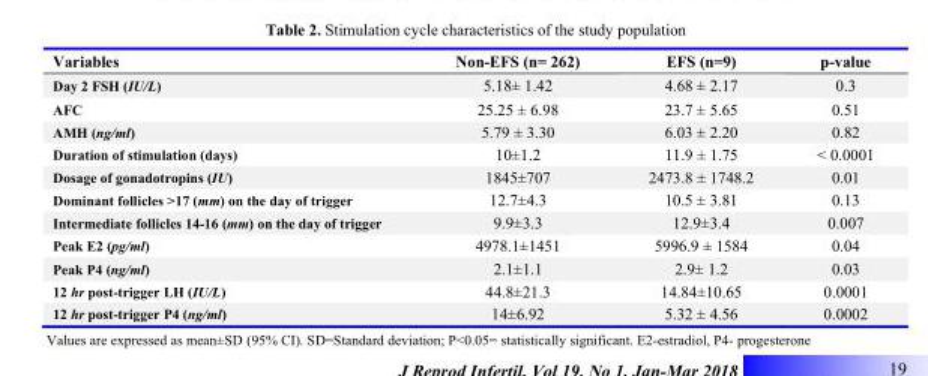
<table><thead><tr><td>Variables</td><td>Non-EFS (n= 262)</td><td>EFS (n=9)</td><td>p-value</td></tr></thead><tbody><tr><td>Day 2 FSH (IU/L)</td><td>5.18± 1.42</td><td>4.68 ± 2.17</td><td>0.3</td></tr><tr><td>AFC</td><td>25.25 ± 6.98</td><td>23.7 ± 5.65</td><td>0.51</td></tr><tr><td>AMH (ng/ml)</td><td>5.79 ± 3.30</td><td>6.03 ± 2.20</td><td>0.82</td></tr><tr><td>Duration of stimulation (days)</td><td>10±1.2</td><td>11.9 ± 1.75</td><td>&lt; 0.0001</td></tr><tr><td>Dosage of gonadotropins (IU)</td><td>1845±707</td><td>2473.8 ± 1748.2</td><td>0.01</td></tr><tr><td>Dominant follicles &gt;17 (mm) on the day of trigger</td><td>12.7±4.3</td><td>10.5 ± 3.81</td><td>0.13</td></tr><tr><td>Intermediate follicles 14-16 (mm) on the day of trigger</td><td>9.9±3.3</td><td>12.9±3.4</td><td>0.007</td></tr><tr><td>Peak E2 (pg/ml)</td><td>4978.1±1451</td><td>5996.9 ± 1584</td><td>0.04</td></tr><tr><td>Peak P4 (ng/ml)</td><td>2.1±1.1</td><td>2.9± 1.2</td><td>0.03</td></tr><tr><td>12 hr post-trigger LH (IU/L)</td><td>44.8±21.3</td><td>14.84±10.65</td><td>0.0001</td></tr><tr><td>12 hr post-trigger P4 (ng/ml)</td><td>14±6.92</td><td>5.32 ± 4.56</td><td>0.0002</td></tr></tbody></table>